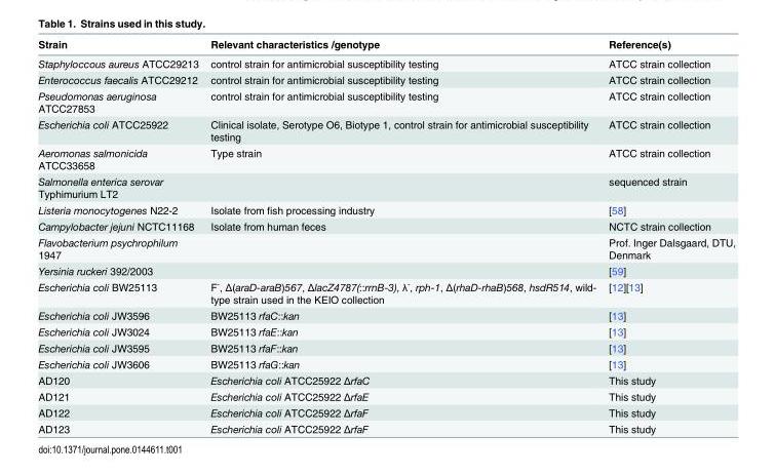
<table><thead><tr><td>Strain</td><td>Relevant characteristics /genotype</td><td>Reference(s)</td></tr></thead><tbody><tr><td>Staphyloccous aureus ATCC29213</td><td>control strain for antimicrobial susceptibility testing</td><td>ATCC strain collection</td></tr><tr><td>Enterococcus faecalis ATCC29212</td><td>control strain for antimicrobial susceptibility testing</td><td>ATCC strain collection</td></tr><tr><td>Pseudomonas aeruginosa ATCC27853</td><td>control strain for antimicrobial susceptibility testing</td><td>ATCC strain collection</td></tr><tr><td>Escherichia coli ATCC25922</td><td>Clinical isolate, Serotype O6, Biotype 1, control strain for antimicrobial susceptibility testing</td><td>ATCC strain collection</td></tr><tr><td>Aeromonas salmonicida ATCC33658</td><td>Type strain</td><td>ATCC strain collection</td></tr><tr><td>Salmonella enterica serovar Typhimurium LT2</td><td></td><td>sequenced strain</td></tr><tr><td>Listeria monocytogenes N22-2</td><td>Isolate from fish processing industry</td><td>[58]</td></tr><tr><td>Campylobacter jejuni NCTC11168</td><td>Isolate from human feces</td><td>NCTC strain collection</td></tr><tr><td>Flavobacterium psychrophilum 1947</td><td></td><td>Prof. Inger Dalsgaard, DTU, Denmark</td></tr><tr><td>Yersinia ruckeri 392/2003</td><td></td><td>[59]</td></tr><tr><td>Escherichia coli BW25113</td><td>F<sup>-</sup>, Δ(araD-araB)567, ΔlacZ4787(::rrnB-3), λ<sup>-</sup>, rph-1, Δ(rhaD-rhaB)568, hsdR514, wild- type strain used in the KEIO collection</td><td>[12][13]</td></tr><tr><td>Escherichia coli JW3596</td><td>BW25113 rfaC::kan</td><td>[13]</td></tr><tr><td>Escherichia coli JW3024</td><td>BW25113 rfaE::kan</td><td>[13]</td></tr><tr><td>Escherichia coli JW3595</td><td>BW25113 rfaF::kan</td><td>[13]</td></tr><tr><td>Escherichia coli JW3606</td><td>BW25113 rfaG::kan</td><td>[13]</td></tr><tr><td>AD120</td><td>Escherichia coli ATCC25922 ΔrfaC</td><td>This study</td></tr><tr><td>AD121</td><td>Escherichia coli ATCC25922 ΔrfaE</td><td>This study</td></tr><tr><td>AD122</td><td>Escherichia coli ATCC25922 ΔrfaF</td><td>This study</td></tr><tr><td>AD123</td><td>Escherichia coli ATCC25922 ΔrfaF</td><td>This study</td></tr></tbody></table>